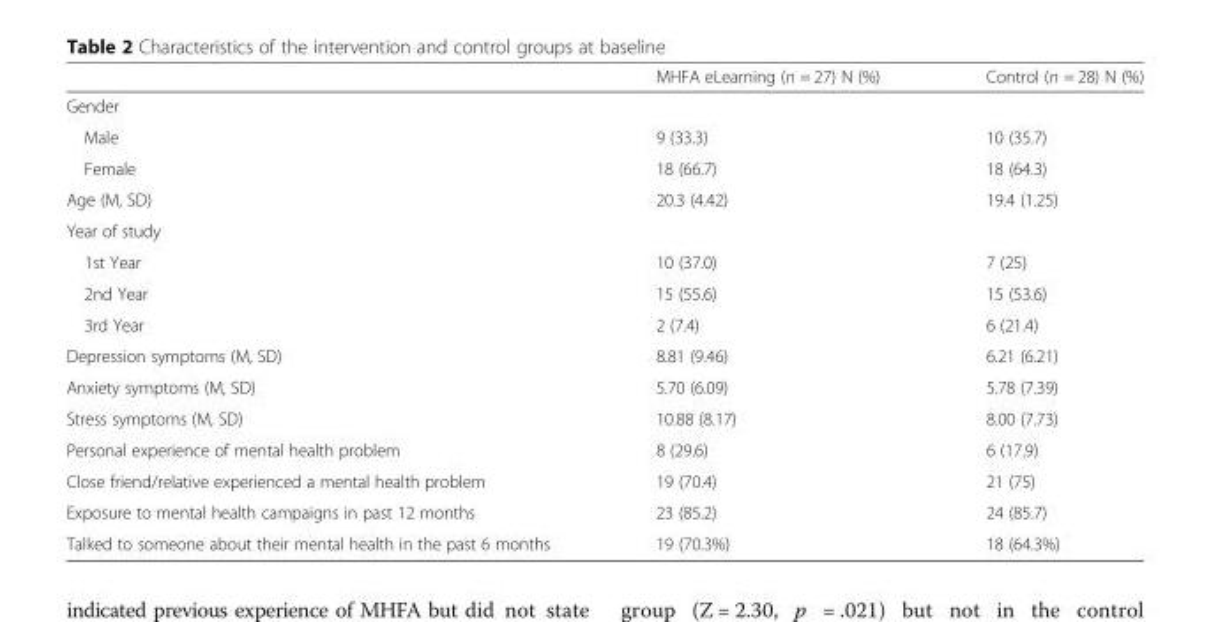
<table><thead><tr><td></td><td>MHFA eLearning (n = 27) N (%)</td><td>Control (n = 28) N (%)</td></tr></thead><tbody><tr><td colspan="3">Gender</td></tr><tr><td>Male</td><td>9 (33.3)</td><td>10 (35.7)</td></tr><tr><td>Female</td><td>18 (66.7)</td><td>18 (64.3)</td></tr><tr><td>Age (M, SD)</td><td>20.3 (4.42)</td><td>19.4 (1.25)</td></tr><tr><td colspan="3">Year of study</td></tr><tr><td>1st Year</td><td>10 (37.0)</td><td>7 (25)</td></tr><tr><td>2nd Year</td><td>15 (55.6)</td><td>15 (53.6)</td></tr><tr><td>3rd Year</td><td>2 (7.4)</td><td>6 (21.4)</td></tr><tr><td>Depression symptoms (M, SD)</td><td>8.81 (9.46)</td><td>6.21 (6.21)</td></tr><tr><td>Anxiety symptoms (M, SD)</td><td>5.70 (6.09)</td><td>5.78 (7.39)</td></tr><tr><td>Stress symptoms (M, SD)</td><td>10.88 (8.17)</td><td>8.00 (7.73)</td></tr><tr><td>Personal experience of mental health problem</td><td>8 (29.6)</td><td>6 (17.9)</td></tr><tr><td>Close friend/relative experienced a mental health problem</td><td>19 (70.4)</td><td>21 (75)</td></tr><tr><td>Exposure to mental health campaigns in past 12 months</td><td>23 (85.2)</td><td>24 (85.7)</td></tr><tr><td>Talked to someone about their mental health in the past 6 months</td><td>19 (70.3%)</td><td>18 (64.3%)</td></tr></tbody></table>